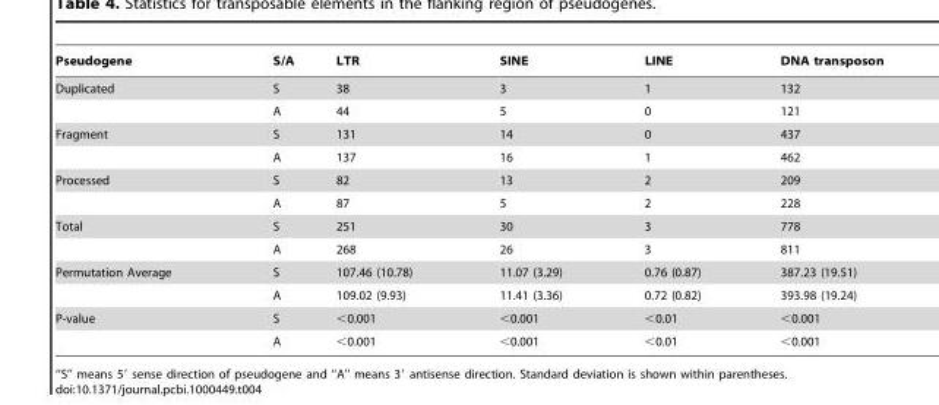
<table><thead><tr><td>Pseudogene</td><td>S/A</td><td>LTR</td><td>SINE</td><td>LINE</td><td>DNA transposon</td></tr></thead><tbody><tr><td rowspan="2">Duplicated</td><td>S</td><td>38</td><td>3</td><td>1</td><td>132</td></tr><tr><td>A</td><td>44</td><td>5</td><td>0</td><td>121</td></tr><tr><td rowspan="2">Fragment</td><td>S</td><td>131</td><td>14</td><td>0</td><td>437</td></tr><tr><td>A</td><td>137</td><td>16</td><td>1</td><td>462</td></tr><tr><td rowspan="2">Processed</td><td>S</td><td>82</td><td>13</td><td>2</td><td>209</td></tr><tr><td>A</td><td>87</td><td>5</td><td>2</td><td>228</td></tr><tr><td rowspan="2">Total</td><td>S</td><td>251</td><td>30</td><td>3</td><td>778</td></tr><tr><td>A</td><td>268</td><td>26</td><td>3</td><td>811</td></tr><tr><td rowspan="2">Permutation Average</td><td>S</td><td>107.46 (10.78)</td><td>11.07 (3.29)</td><td>0.76 (0.87)</td><td>387.23 (19.51)</td></tr><tr><td>A</td><td>109.02 (9.93)</td><td>11.41 (3.36)</td><td>0.72 (0.82)</td><td>393.98 (19.24)</td></tr><tr><td rowspan="2">P-value</td><td>S</td><td>&lt;0.001</td><td>&lt;0.001</td><td>&lt;0.01</td><td>&lt;0.001</td></tr><tr><td>A</td><td>&lt;0.001</td><td>&lt;0.001</td><td>&lt;0.01</td><td>&lt;0.001</td></tr></tbody></table>